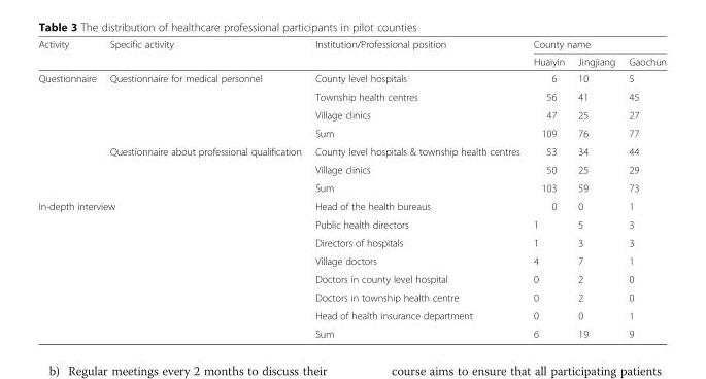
<table><thead><tr><td rowspan="2">Activity</td><td rowspan="2">Specific activity</td><td rowspan="2">Institution/Professional position</td><td colspan="3">County name</td></tr><tr><td>Huaiyin</td><td>Jingjiang</td><td>Gaochun</td></tr></thead><tbody><tr><td rowspan="7">Questionnaire</td><td rowspan="4">Questionnaire for medical personnel</td><td>County level hospitals</td><td>6</td><td>10</td><td>5</td></tr><tr><td>Township health centres</td><td>56</td><td>41</td><td>45</td></tr><tr><td>Village clinics</td><td>47</td><td>25</td><td>27</td></tr><tr><td>Sum</td><td>109</td><td>76</td><td>77</td></tr><tr><td rowspan="3">Questionnaire about professional qualification</td><td>County level hospitals &amp; township health centres</td><td>53</td><td>34</td><td>44</td></tr><tr><td>Village clinics</td><td>50</td><td>25</td><td>29</td></tr><tr><td>Sum</td><td>103</td><td>59</td><td>73</td></tr><tr><td rowspan="8" colspan="2">In-depth interview</td><td>Head of the health bureaus</td><td>0</td><td>0</td><td>1</td></tr><tr><td>Public health directors</td><td>1</td><td>5</td><td>3</td></tr><tr><td>Directors of hospitals</td><td>1</td><td>3</td><td>3</td></tr><tr><td>Village doctors</td><td>4</td><td>7</td><td>1</td></tr><tr><td>Doctors in county level hospital</td><td>0</td><td>2</td><td>0</td></tr><tr><td>Doctors in township health centre</td><td>0</td><td>2</td><td>0</td></tr><tr><td>Head of health insurance department</td><td>0</td><td>0</td><td>1</td></tr><tr><td>Sum</td><td>6</td><td>19</td><td>9</td></tr></tbody></table>